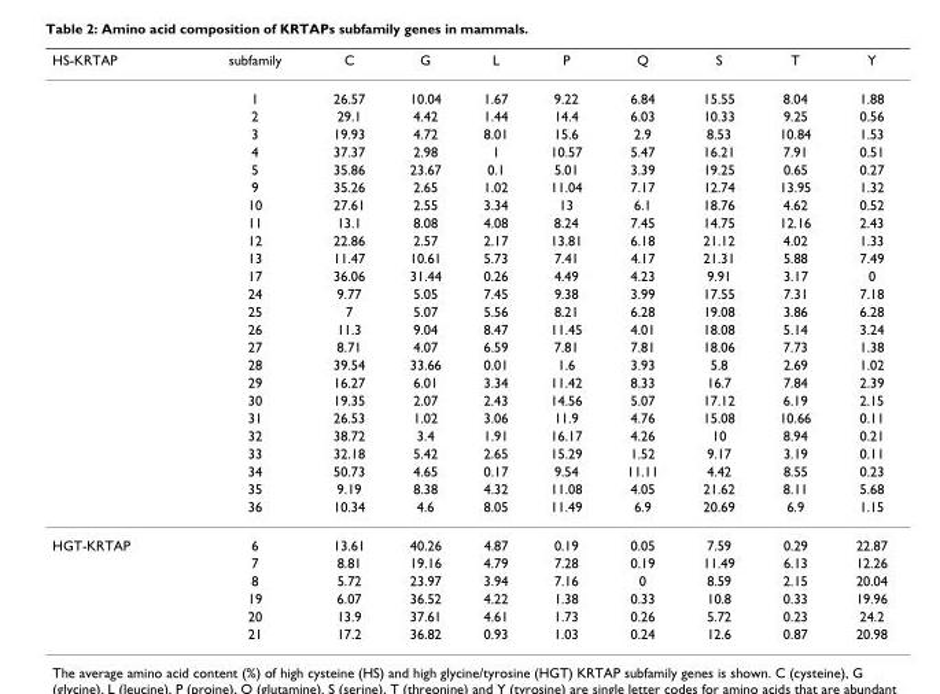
<table><thead><tr><td>HS-KRTAP</td><td>subfamily</td><td>C</td><td>G</td><td>L</td><td>P</td><td>Q</td><td>S</td><td>T</td><td>Y</td></tr></thead><tbody><tr><td></td><td>1</td><td>26.57</td><td>10.04</td><td>1.67</td><td>9.22</td><td>6.84</td><td>15.55</td><td>8.04</td><td>1.88</td></tr><tr><td></td><td>2</td><td>29.1</td><td>4.42</td><td>1.44</td><td>14.4</td><td>6.03</td><td>10.33</td><td>9.25</td><td>0.56</td></tr><tr><td></td><td>3</td><td>19.93</td><td>4.72</td><td>8.01</td><td>15.6</td><td>2.9</td><td>8.53</td><td>10.84</td><td>1.53</td></tr><tr><td></td><td>4</td><td>37.37</td><td>2.98</td><td>1</td><td>10.57</td><td>5.47</td><td>16.21</td><td>7.91</td><td>0.51</td></tr><tr><td></td><td>5</td><td>35.86</td><td>23.67</td><td>0.1</td><td>5.01</td><td>3.39</td><td>19.25</td><td>0.65</td><td>0.27</td></tr><tr><td></td><td>9</td><td>35.26</td><td>2.65</td><td>1.02</td><td>11.04</td><td>7.17</td><td>12.74</td><td>13.95</td><td>1.32</td></tr><tr><td></td><td>10</td><td>27.61</td><td>2.55</td><td>3.34</td><td>13</td><td>6.1</td><td>18.76</td><td>4.62</td><td>0.52</td></tr><tr><td></td><td>11</td><td>13.1</td><td>8.08</td><td>4.08</td><td>8.24</td><td>7.45</td><td>14.75</td><td>12.16</td><td>2.43</td></tr><tr><td></td><td>12</td><td>22.86</td><td>2.57</td><td>2.17</td><td>13.81</td><td>6.18</td><td>21.12</td><td>4.02</td><td>1.33</td></tr><tr><td></td><td>13</td><td>11.47</td><td>10.61</td><td>5.73</td><td>7.41</td><td>4.17</td><td>21.31</td><td>5.88</td><td>7.49</td></tr><tr><td></td><td>17</td><td>36.06</td><td>31.44</td><td>0.26</td><td>4.49</td><td>4.23</td><td>9.91</td><td>3.17</td><td>0</td></tr><tr><td></td><td>24</td><td>9.77</td><td>5.05</td><td>7.45</td><td>9.38</td><td>3.99</td><td>17.55</td><td>7.31</td><td>7.18</td></tr><tr><td></td><td>25</td><td>7</td><td>5.07</td><td>5.56</td><td>8.21</td><td>6.28</td><td>19.08</td><td>3.86</td><td>6.28</td></tr><tr><td></td><td>26</td><td>11.3</td><td>9.04</td><td>8.47</td><td>11.45</td><td>4.01</td><td>18.08</td><td>5.14</td><td>3.24</td></tr><tr><td></td><td>27</td><td>8.71</td><td>4.07</td><td>6.59</td><td>7.81</td><td>7.81</td><td>18.06</td><td>7.73</td><td>1.38</td></tr><tr><td></td><td>28</td><td>39.54</td><td>33.66</td><td>0.01</td><td>1.6</td><td>3.93</td><td>5.8</td><td>2.69</td><td>1.02</td></tr><tr><td></td><td>29</td><td>16.27</td><td>6.01</td><td>3.34</td><td>11.42</td><td>8.33</td><td>16.7</td><td>7.84</td><td>2.39</td></tr><tr><td></td><td>30</td><td>19.35</td><td>2.07</td><td>2.43</td><td>14.56</td><td>5.07</td><td>17.12</td><td>6.19</td><td>2.15</td></tr><tr><td></td><td>31</td><td>26.53</td><td>1.02</td><td>3.06</td><td>11.9</td><td>4.76</td><td>15.08</td><td>10.66</td><td>0.11</td></tr><tr><td></td><td>32</td><td>38.72</td><td>3.4</td><td>1.91</td><td>16.17</td><td>4.26</td><td>10</td><td>8.94</td><td>0.21</td></tr><tr><td></td><td>33</td><td>32.18</td><td>5.42</td><td>2.65</td><td>15.29</td><td>1.52</td><td>9.17</td><td>3.19</td><td>0.11</td></tr><tr><td></td><td>34</td><td>50.73</td><td>4.65</td><td>0.17</td><td>9.54</td><td>11.11</td><td>4.42</td><td>8.55</td><td>0.23</td></tr><tr><td></td><td>35</td><td>9.19</td><td>8.38</td><td>4.32</td><td>11.08</td><td>4.05</td><td>21.62</td><td>8.11</td><td>5.68</td></tr><tr><td></td><td>36</td><td>10.34</td><td>4.6</td><td>8.05</td><td>11.49</td><td>6.9</td><td>20.69</td><td>6.9</td><td>1.15</td></tr><tr><td rowspan="6">HGT-KRTAP</td><td>6</td><td>13.61</td><td>40.26</td><td>4.87</td><td>0.19</td><td>0.05</td><td>7.59</td><td>0.29</td><td>22.87</td></tr><tr><td>7</td><td>8.81</td><td>19.16</td><td>4.79</td><td>7.28</td><td>0.19</td><td>11.49</td><td>6.13</td><td>12.26</td></tr><tr><td>8</td><td>5.72</td><td>23.97</td><td>3.94</td><td>7.16</td><td>0</td><td>8.59</td><td>2.15</td><td>20.04</td></tr><tr><td>19</td><td>6.07</td><td>36.52</td><td>4.22</td><td>1.38</td><td>0.33</td><td>10.8</td><td>0.33</td><td>19.96</td></tr><tr><td>20</td><td>13.9</td><td>37.61</td><td>4.61</td><td>1.73</td><td>0.26</td><td>5.72</td><td>0.23</td><td>24.2</td></tr><tr><td>21</td><td>17.2</td><td>36.82</td><td>0.93</td><td>1.03</td><td>0.24</td><td>12.6</td><td>0.87</td><td>20.98</td></tr></tbody></table>